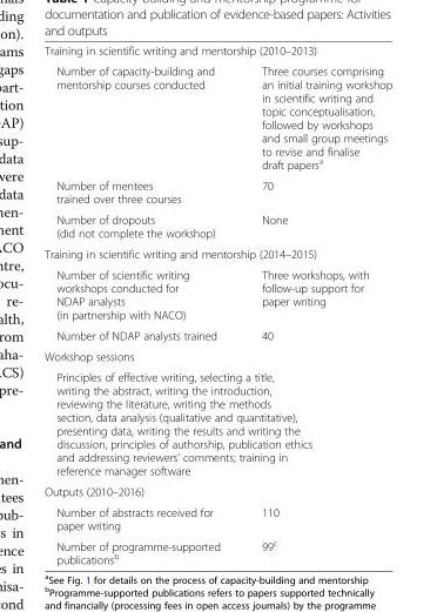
<table><tbody><tr><td colspan="2">Training in scientific writing and mentorship (2010–2013)</td></tr><tr><td>Number of capacity-building and mentorship courses conducted</td><td>Three courses comprising an initial training workshop in scientific writing and topic conceptualisation, followed by workshops and small group meetings to revise and finalise draft papers<sup>a</sup></td></tr><tr><td>Number of mentees trained over three courses</td><td>70</td></tr><tr><td>Number of dropouts (did not complete the workshop)</td><td>None</td></tr><tr><td colspan="2">Training in scientific writing and mentorship (2014–2015)</td></tr><tr><td>Number of scientific writing workshops conducted for NDAP analysts (in partnership with NACO)</td><td>Three workshops, with follow-up support for paper writing</td></tr><tr><td>Number of NDAP analysts trained</td><td>40</td></tr><tr><td colspan="2">Workshop sessions</td></tr><tr><td colspan="2">Principles of effective writing, selecting a title, writing the abstract, writing the introduction, reviewing the literature, writing the methods section, data analysis (qualitative and quantitative), presenting data, writing the results and writing the discussion, principles of authorship, publication ethics and addressing reviewers’ comments; training in reference manager software</td></tr><tr><td colspan="2">Outputs (2010–2016)</td></tr><tr><td>Number of abstracts received for paper writing</td><td>110</td></tr><tr><td>Number of programme-supported publications<sup>b</sup></td><td>99<sup>c</sup></td></tr></tbody></table>